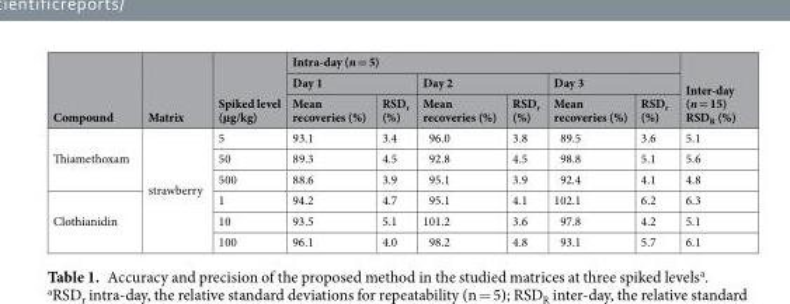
<table><thead><tr><td rowspan="3">Compound</td><td rowspan="3">Matrix</td><td rowspan="3">Spiked level (µg/kg)</td><td colspan="6">Intra-day (n = 5)</td><td rowspan="3">Inter-day (n = 15) RSD<sub>R</sub> (%)</td></tr><tr><td colspan="2">Day 1</td><td colspan="2">Day 2</td><td colspan="2">Day 3</td></tr><tr><td>Mean recoveries (%)</td><td>RSD<sub>r</sub> (%)</td><td>Mean recoveries (%)</td><td>RSD<sub>r</sub> (%)</td><td>Mean recoveries (%)</td><td>RSD<sub>r</sub> (%)</td></tr></thead><tbody><tr><td rowspan="3">Thiamethoxam</td><td rowspan="6">strawberry</td><td>5</td><td>93.1</td><td>3.4</td><td>96.0</td><td>3.8</td><td>89.5</td><td>3.6</td><td>5.1</td></tr><tr><td>50</td><td>89.3</td><td>4.5</td><td>92.8</td><td>4.5</td><td>98.8</td><td>5.1</td><td>5.6</td></tr><tr><td>500</td><td>88.6</td><td>3.9</td><td>95.1</td><td>3.9</td><td>92.4</td><td>4.1</td><td>4.8</td></tr><tr><td rowspan="3">Clothianidin</td><td>1</td><td>94.2</td><td>4.7</td><td>95.1</td><td>4.1</td><td>102.1</td><td>6.2</td><td>6.3</td></tr><tr><td>10</td><td>93.5</td><td>5.1</td><td>101.2</td><td>3.6</td><td>97.8</td><td>4.2</td><td>5.1</td></tr><tr><td>100</td><td>96.1</td><td>4.0</td><td>98.2</td><td>4.8</td><td>93.1</td><td>5.7</td><td>6.1</td></tr></tbody></table>